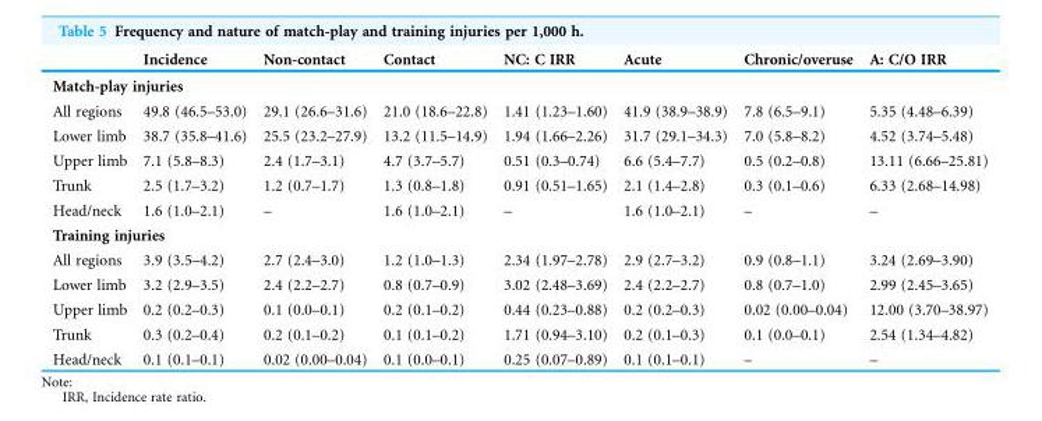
<table><thead><tr><td></td><td>Incidence</td><td>Non-contact</td><td>Contact</td><td>NC: C IRR</td><td>Acute</td><td>Chronic/overuse</td><td>A: C/O IRR</td></tr></thead><tbody><tr><td colspan="8">Match-play injuries</td></tr><tr><td>All regions</td><td>49.8 (46.5–53.0)</td><td>29.1 (26.6–31.6)</td><td>21.0 (18.6–22.8)</td><td>1.41 (1.23–1.60)</td><td>41.9 (38.9–38.9)</td><td>7.8 (6.5–9.1)</td><td>5.35 (4.48–6.39)</td></tr><tr><td>Lower limb</td><td>38.7 (35.8–41.6)</td><td>25.5 (23.2–27.9)</td><td>13.2 (11.5–14.9)</td><td>1.94 (1.66–2.26)</td><td>31.7 (29.1–34.3)</td><td>7.0 (5.8–8.2)</td><td>4.52 (3.74–5.48)</td></tr><tr><td>Upper limb</td><td>7.1 (5.8–8.3)</td><td>2.4 (1.7–3.1)</td><td>4.7 (3.7–5.7)</td><td>0.51 (0.3–0.74)</td><td>6.6 (5.4–7.7)</td><td>0.5 (0.2–0.8)</td><td>13.11 (6.66–25.81)</td></tr><tr><td>Trunk</td><td>2.5 (1.7–3.2)</td><td>1.2 (0.7–1.7)</td><td>1.3 (0.8–1.8)</td><td>0.91 (0.51–1.65)</td><td>2.1 (1.4–2.8)</td><td>0.3 (0.1–0.6)</td><td>6.33 (2.68–14.98)</td></tr><tr><td>Head/neck</td><td>1.6 (1.0–2.1)</td><td>–</td><td>1.6 (1.0–2.1)</td><td>–</td><td>1.6 (1.0–2.1)</td><td>–</td><td>–</td></tr><tr><td colspan="8">Training injuries</td></tr><tr><td>All regions</td><td>3.9 (3.5–4.2)</td><td>2.7 (2.4–3.0)</td><td>1.2 (1.0–1.3)</td><td>2.34 (1.97–2.78)</td><td>2.9 (2.7–3.2)</td><td>0.9 (0.8–1.1)</td><td>3.24 (2.69–3.90)</td></tr><tr><td>Lower limb</td><td>3.2 (2.9–3.5)</td><td>2.4 (2.2–2.7)</td><td>0.8 (0.7–0.9)</td><td>3.02 (2.48–3.69)</td><td>2.4 (2.2–2.7)</td><td>0.8 (0.7–1.0)</td><td>2.99 (2.45–3.65)</td></tr><tr><td>Upper limb</td><td>0.2 (0.2–0.3)</td><td>0.1 (0.0–0.1)</td><td>0.2 (0.1–0.2)</td><td>0.44 (0.23–0.88)</td><td>0.2 (0.2–0.3)</td><td>0.02 (0.00–0.04)</td><td>12.00 (3.70–38.97)</td></tr><tr><td>Trunk</td><td>0.3 (0.2–0.4)</td><td>0.2 (0.1–0.2)</td><td>0.1 (0.1–0.2)</td><td>1.71 (0.94–3.10)</td><td>0.2 (0.1–0.3)</td><td>0.1 (0.0–0.1)</td><td>2.54 (1.34–4.82)</td></tr><tr><td>Head/neck</td><td>0.1 (0.1–0.1)</td><td>0.02 (0.00–0.04)</td><td>0.1 (0.0–0.1)</td><td>0.25 (0.07–0.89)</td><td>0.1 (0.1–0.1)</td><td>–</td><td>–</td></tr></tbody></table>